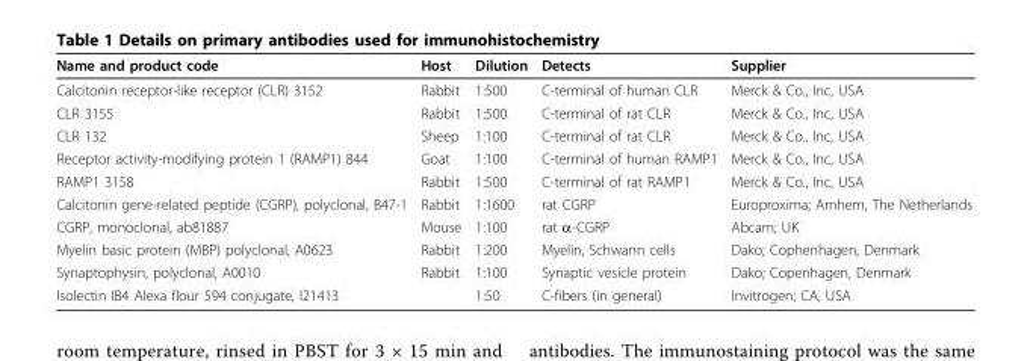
<table><thead><tr><td>Name and product code</td><td>Host</td><td>Dilution</td><td>Detects</td><td>Supplier</td></tr></thead><tbody><tr><td>Calcitonin receptor-like receptor (CLR) 3152</td><td>Rabbit</td><td>1:500</td><td>C-terminal of human CLR</td><td>Merck &amp; Co., Inc, USA</td></tr><tr><td>CLR 3155</td><td>Rabbit</td><td>1:500</td><td>C-terminal of rat CLR</td><td>Merck &amp; Co., Inc, USA</td></tr><tr><td>CLR 132</td><td>Sheep</td><td>1:100</td><td>C-terminal of rat CLR</td><td>Merck &amp; Co., Inc, USA</td></tr><tr><td>Receptor activity-modifying protein 1 (RAMP1) 844</td><td>Goat</td><td>1:100</td><td>C-terminal of human RAMP1</td><td>Merck &amp; Co., Inc, USA</td></tr><tr><td>RAMP1 3158</td><td>Rabbit</td><td>1:500</td><td>C-terminal of rat RAMP1</td><td>Merck &amp; Co., Inc, USA</td></tr><tr><td>Calcitonin gene-related peptide (CGRP), polyclonal, B47-1</td><td>Rabbit</td><td>1:1600</td><td>rat CGRP</td><td>Europroxima; Arnhem, The Netherlands</td></tr><tr><td>CGRP, monoclonal, ab81887</td><td>Mouse</td><td>1:100</td><td>rat α-CGRP</td><td>Abcam; UK</td></tr><tr><td>Myelin basic protein (MBP) polyclonal, A0623</td><td>Rabbit</td><td>1:200</td><td>Myelin, Schwann cells</td><td>Dako; Cophenhagen, Denmark</td></tr><tr><td>Synaptophysin, polyclonal, A0010</td><td>Rabbit</td><td>1:100</td><td>Synaptic vesicle protein</td><td>Dako; Copenhagen, Denmark</td></tr><tr><td>Isolectin IB4 Alexa flour 594 conjugate, I21413</td><td></td><td>1:50</td><td>C-fibers (in general)</td><td>Invitrogen; CA, USA</td></tr></tbody></table>